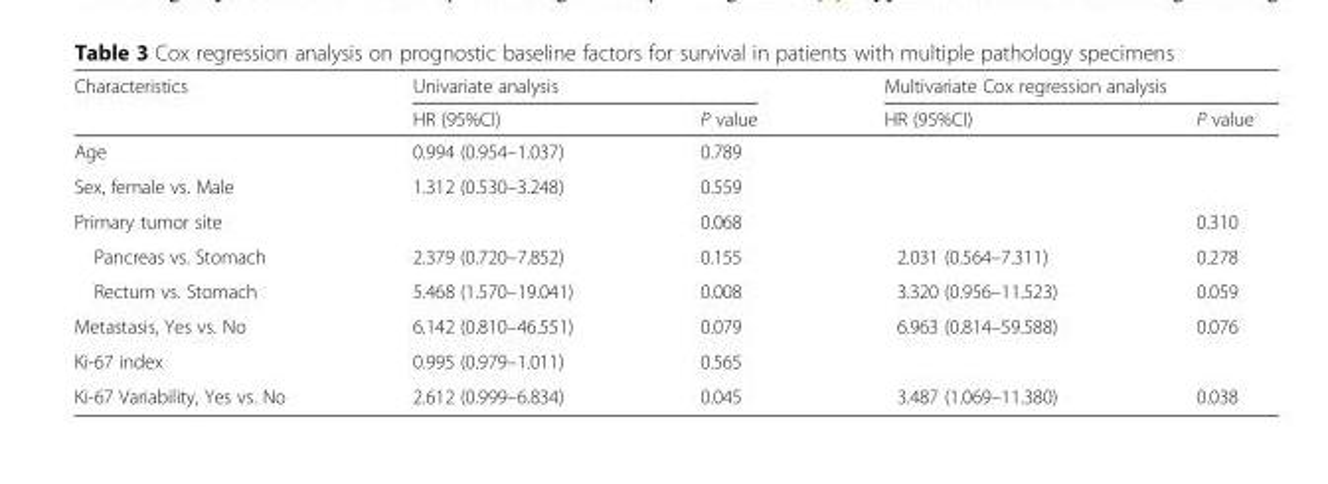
<table><thead><tr><td rowspan="2">Characteristics</td><td colspan="2">Univariate analysis</td><td colspan="2">Multivariate Cox regression analysis</td></tr><tr><td>HR (95%CI)</td><td>P value</td><td>HR (95%CI)</td><td>P value</td></tr></thead><tbody><tr><td>Age</td><td>0.994 (0.954–1.037)</td><td>0.789</td><td></td><td></td></tr><tr><td>Sex, female vs. Male</td><td>1.312 (0.530–3.248)</td><td>0.559</td><td></td><td></td></tr><tr><td>Primary tumor site</td><td></td><td>0.068</td><td></td><td>0.310</td></tr><tr><td>Pancreas vs. Stomach</td><td>2.379 (0.720–7.852)</td><td>0.155</td><td>2.031 (0.564–7.311)</td><td>0.278</td></tr><tr><td>Rectum vs. Stomach</td><td>5.468 (1.570–19.041)</td><td>0.008</td><td>3.320 (0.956–11.523)</td><td>0.059</td></tr><tr><td>Metastasis, Yes vs. No</td><td>6.142 (0.810–46.551)</td><td>0.079</td><td>6.963 (0.814–59.588)</td><td>0.076</td></tr><tr><td>Ki-67 index</td><td>0.995 (0.979–1.011)</td><td>0.565</td><td></td><td></td></tr><tr><td>Ki-67 Variability, Yes vs. No</td><td>2.612 (0.999–6.834)</td><td>0.045</td><td>3.487 (1.069–11.380)</td><td>0.038</td></tr></tbody></table>